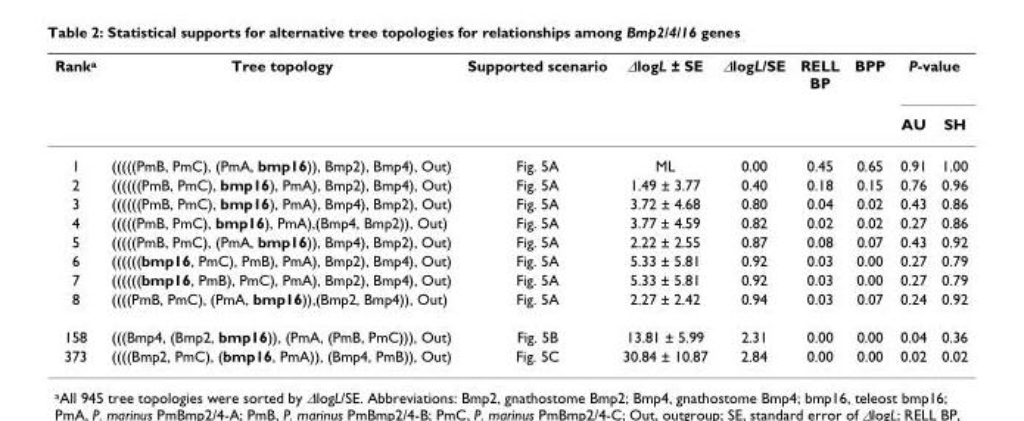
<table><thead><tr><td rowspan="2">Rank<sup>a</sup></td><td rowspan="2">Tree topology</td><td rowspan="2">Supported scenario</td><td rowspan="2">ΔlogL ± SE</td><td rowspan="2">ΔlogL/SE</td><td rowspan="2">RELL BP</td><td rowspan="2">BPP</td><td colspan="2">P-value</td></tr><tr><td>AU</td><td>SH</td></tr></thead><tbody><tr><td>1</td><td>(((((PmB, PmC), (PmA, bmp16)), Bmp2), Bmp4), Out)</td><td>Fig. 5A</td><td>ML</td><td>0.00</td><td>0.45</td><td>0.65</td><td>0.91</td><td>1.00</td></tr><tr><td>2</td><td>((((((PmB, PmC), bmp16), PmA), Bmp2), Bmp4), Out)</td><td>Fig. 5A</td><td>1.49 ± 3.77</td><td>0.40</td><td>0.18</td><td>0.15</td><td>0.76</td><td>0.96</td></tr><tr><td>3</td><td>((((((PmB, PmC), bmp16), PmA), Bmp4), Bmp2), Out)</td><td>Fig. 5A</td><td>3.72 ± 4.68</td><td>0.80</td><td>0.04</td><td>0.02</td><td>0.43</td><td>0.86</td></tr><tr><td>4</td><td>(((((PmB, PmC), bmp16), PmA),(Bmp4, Bmp2)), Out)</td><td>Fig. 5A</td><td>3.77 ± 4.59</td><td>0.82</td><td>0.02</td><td>0.02</td><td>0.27</td><td>0.86</td></tr><tr><td>5</td><td>(((((PmB, PmC), (PmA, bmp16)), Bmp4), Bmp2), Out)</td><td>Fig. 5A</td><td>2.22 ± 2.55</td><td>0.87</td><td>0.08</td><td>0.07</td><td>0.43</td><td>0.92</td></tr><tr><td>6</td><td>((((((bmp16, PmC), PmB), PmA), Bmp2), Bmp4), Out)</td><td>Fig. 5A</td><td>5.33 ± 5.81</td><td>0.92</td><td>0.03</td><td>0.00</td><td>0.27</td><td>0.79</td></tr><tr><td>7</td><td>((((((bmp16, PmB), PmC), PmA), Bmp2), Bmp4), Out)</td><td>Fig. 5A</td><td>5.33 ± 5.81</td><td>0.92</td><td>0.03</td><td>0.00</td><td>0.27</td><td>0.79</td></tr><tr><td>8</td><td>((((PmB, PmC), (PmA, bmp16)),(Bmp2, Bmp4)), Out)</td><td>Fig. 5A</td><td>2.27 ± 2.42</td><td>0.94</td><td>0.03</td><td>0.07</td><td>0.24</td><td>0.92</td></tr><tr><td>158</td><td>(((Bmp4, (Bmp2, bmp16)), (PmA, (PmB, PmC))), Out)</td><td>Fig. 5B</td><td>13.81 ± 5.99</td><td>2.31</td><td>0.00</td><td>0.00</td><td>0.04</td><td>0.36</td></tr><tr><td>373</td><td>((((Bmp2, PmC), (bmp16, PmA)), (Bmp4, PmB)), Out)</td><td>Fig. 5C</td><td>30.84 ± 10.87</td><td>2.84</td><td>0.00</td><td>0.00</td><td>0.02</td><td>0.02</td></tr></tbody></table>